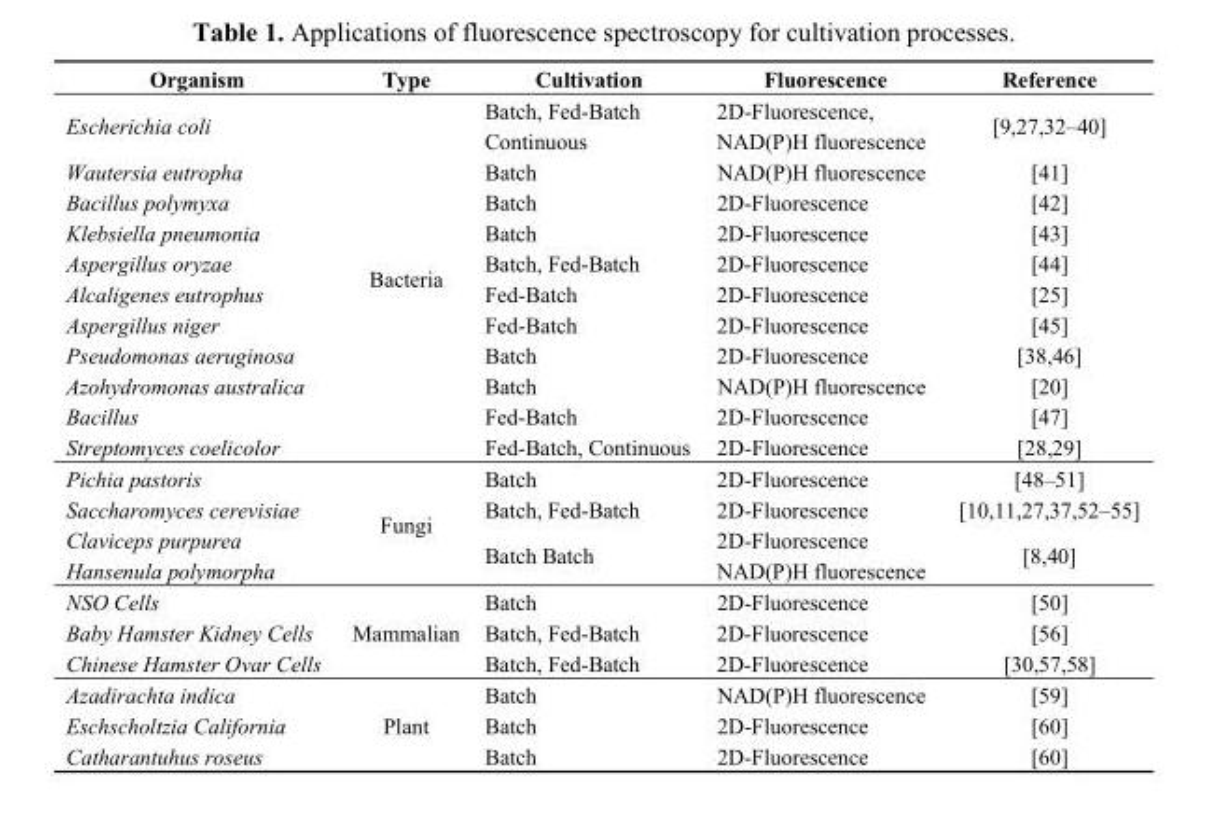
<table><thead><tr><td>Organism</td><td>Type</td><td>Cultivation</td><td>Fluorescence</td><td>Reference</td></tr></thead><tbody><tr><td>Escherichia coli</td><td rowspan="11">Bacteria</td><td>Batch, Fed-Batch Continuous</td><td>2D-Fluorescence, NAD(P)H fluorescence</td><td>[9,27,32–40]</td></tr><tr><td>Wautersia eutropha</td><td>Batch</td><td>NAD(P)H fluorescence</td><td>[41]</td></tr><tr><td>Bacillus polymyxa</td><td>Batch</td><td>2D-Fluorescence</td><td>[42]</td></tr><tr><td>Klebsiella pneumonia</td><td>Batch</td><td>2D-Fluorescence</td><td>[43]</td></tr><tr><td>Aspergillus oryzae</td><td>Batch, Fed-Batch</td><td>2D-Fluorescence</td><td>[44]</td></tr><tr><td>Alcaligenes eutrophus</td><td>Fed-Batch</td><td>2D-Fluorescence</td><td>[25]</td></tr><tr><td>Aspergillus niger</td><td>Fed-Batch</td><td>2D-Fluorescence</td><td>[45]</td></tr><tr><td>Pseudomonas aeruginosa</td><td>Batch</td><td>2D-Fluorescence</td><td>[38,46]</td></tr><tr><td>Azohydromonas australica</td><td>Batch</td><td>NAD(P)H fluorescence</td><td>[20]</td></tr><tr><td>Bacillus</td><td>Fed-Batch</td><td>2D-Fluorescence</td><td>[47]</td></tr><tr><td>Streptomyces coelicolor</td><td>Fed-Batch, Continuous</td><td>2D-Fluorescence</td><td>[28,29]</td></tr><tr><td>Pichia pastoris</td><td rowspan="3">Fungi</td><td>Batch</td><td>2D-Fluorescence</td><td>[48–51]</td></tr><tr><td>Saccharomyces cerevisiae</td><td>Batch, Fed-Batch</td><td>2D-Fluorescence</td><td>[10,11,27,37,52–55]</td></tr><tr><td>Claviceps purpurea Hansenula polymorpha</td><td>Batch Batch</td><td>2D-Fluorescence NAD(P)H fluorescence</td><td>[8,40]</td></tr><tr><td>NSO Cells</td><td rowspan="3">Mammalian</td><td>Batch</td><td>2D-Fluorescence</td><td>[50]</td></tr><tr><td>Baby Hamster Kidney Cells</td><td>Batch, Fed-Batch</td><td>2D-Fluorescence</td><td>[56]</td></tr><tr><td>Chinese Hamster Ovar Cells</td><td>Batch, Fed-Batch</td><td>2D-Fluorescence</td><td>[30,57,58]</td></tr><tr><td>Azadirachta indica</td><td rowspan="3">Plant</td><td>Batch</td><td>NAD(P)H fluorescence</td><td>[59]</td></tr><tr><td>Eschscholtzia California</td><td>Batch</td><td>2D-Fluorescence</td><td>[60]</td></tr><tr><td>Catharantuhus roseus</td><td>Batch</td><td>2D-Fluorescence</td><td>[60]</td></tr></tbody></table>